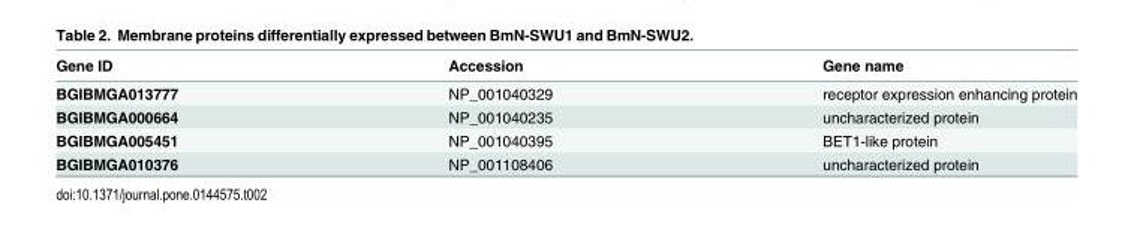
<table><thead><tr><td>Gene ID</td><td>Accession</td><td>Gene name</td></tr></thead><tbody><tr><td>BGIBMGA013777</td><td>NP_001040329</td><td>receptor expression enhancing protein</td></tr><tr><td>BGIBMGA000664</td><td>NP_001040235</td><td>uncharacterized protein</td></tr><tr><td>BGIBMGA005451</td><td>NP_001040395</td><td>BET1-like protein</td></tr><tr><td>BGIBMGA010376</td><td>NP_001108406</td><td>uncharacterized protein</td></tr></tbody></table>